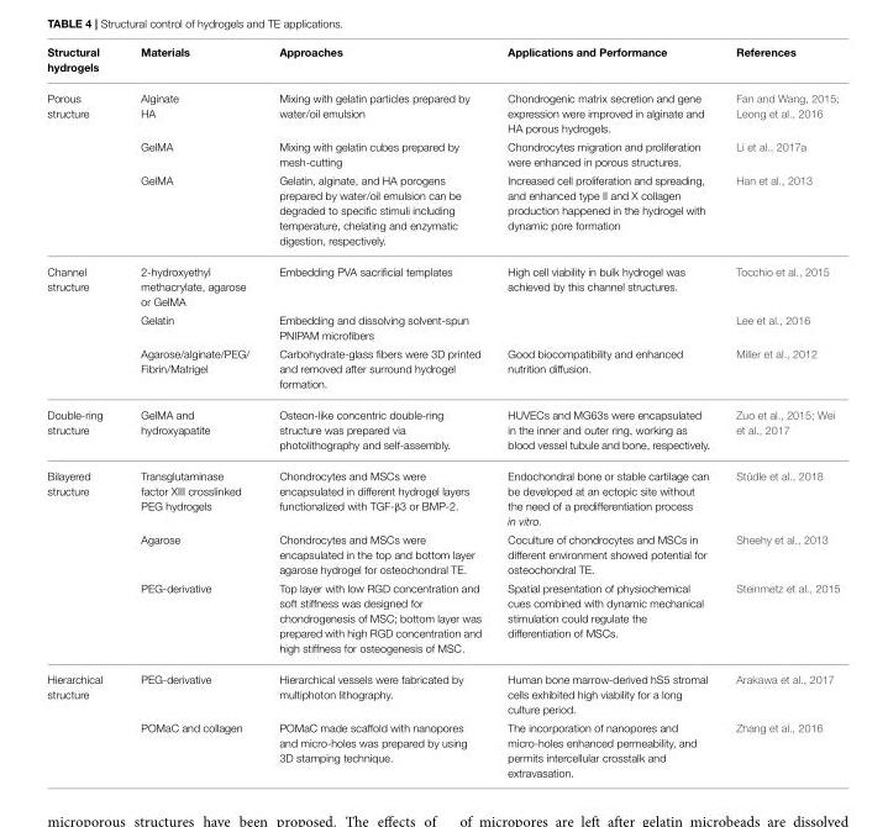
<table><thead><tr><td>Structural hydrogels</td><td>Materials</td><td>Approaches</td><td>Applications and Performance</td><td>References</td></tr></thead><tbody><tr><td rowspan="3">Porous structure</td><td>Alginate HA</td><td>Mixing with gelatin particles prepared by water/oil emulsion</td><td>Chondrogenic matrix secretion and gene expression were improved in alginate and HA porous hydrogels.</td><td>Fan and Wang, 2015; Leong et al., 2016</td></tr><tr><td>GelMA</td><td>Mixing with gelatin cubes prepared by mesh-cutting</td><td>Chondrocytes migration and proliferation were enhanced in porous structures.</td><td>Li et al., 2017a</td></tr><tr><td>GelMA</td><td>Gelatin, alginate, and HA porogens prepared by water/oil emulsion can be degraded to specific stimuli including temperature, chelating and enzymatic digestion, respectively.</td><td>Increased cell proliferation and spreading, and enhanced type II and X collagen production happened in the hydrogel with dynamic pore formation</td><td>Han et al., 2013</td></tr><tr><td rowspan="3">Channel structure</td><td>2-hydroxyethyl methacrylate, agarose or GelMA</td><td>Embedding PVA sacrificial templates</td><td>High cell viability in bulk hydrogel was achieved by this channel structures.</td><td>Tocchio et al., 2015</td></tr><tr><td>Gelatin</td><td>Embedding and dissolving solvent-spun PNIPAM microfibers</td><td></td><td>Lee et al., 2016</td></tr><tr><td>Agarose/alginate/PEG/ Fibrin/Matrigel</td><td>Carbohydrate-glass fibers were 3D printed and removed after surround hydrogel formation.</td><td>Good biocompatibility and enhanced nutrition diffusion.</td><td>Miller et al., 2012</td></tr><tr><td>Double-ring structure</td><td>GelMA and hydroxyapatite</td><td>Osteon-like concentric double-ring structure was prepared via photolithography and self-assembly.</td><td>HUVECs and MG63s were encapsulated in the inner and outer ring, working as blood vessel tubule and bone, respectively.</td><td>Zuo et al., 2015; Wei et al., 2017</td></tr><tr><td rowspan="3">Bilayered structure</td><td>Transglutaminase factor XIII crosslinked PEG hydrogels</td><td>Chondrocytes and MSCs were encapsulated in different hydrogel layers functionalized with TGF-β3 or BMP-2.</td><td>Endochondral bone or stable cartilage can be developed at an ectopic site without the need of a predifferentiation process in vitro.</td><td>Stüdle et al., 2018</td></tr><tr><td>Agarose</td><td>Chondrocytes and MSCs were encapsulated in the top and bottom layer agarose hydrogel for osteochondral TE.</td><td>Coculture of chondrocytes and MSCs in different environment showed potential for osteochondral TE.</td><td>Sheehy et al., 2013</td></tr><tr><td>PEG-derivative</td><td>Top layer with low RGD concentration and soft stiffness was designed for chondrogenesis of MSC; bottom layer was prepared with high RGD concentration and high stiffness for osteogenesis of MSC.</td><td>Spatial presentation of physiochemical cues combined with dynamic mechanical stimulation could regulate the differentiation of MSCs.</td><td>Steinmetz et al., 2015</td></tr><tr><td rowspan="2">Hierarchical structure</td><td>PEG-derivative</td><td>Hierarchical vessels were fabricated by multiphoton lithography.</td><td>Human bone marrow-derived hS5 stromal cells exhibited high viability for a long culture period.</td><td>Arakawa et al., 2017</td></tr><tr><td>POMaC and collagen</td><td>POMaC made scaffold with nanopores and micro-holes was prepared by using 3D stamping technique.</td><td>The incorporation of nanopores and micro-holes enhanced permeability, and permits intercellular crosstalk and extravasation.</td><td>Zhang et al., 2016</td></tr></tbody></table>